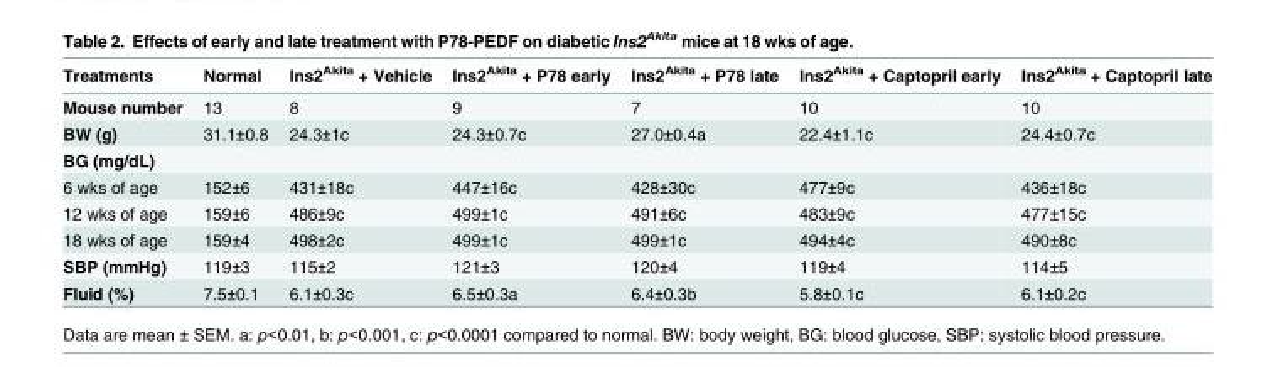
<table><thead><tr><td>Treatments</td><td>Normal</td><td>Ins2<sup>Akita</sup> + Vehicle</td><td>Ins2<sup>Akita</sup> + P78 early</td><td>Ins2<sup>Akita</sup> + P78 late</td><td>Ins2<sup>Akita</sup> + Captopril early</td><td>Ins2<sup>Akita</sup> + Captopril late</td></tr></thead><tbody><tr><td>Mouse number</td><td>13</td><td>8</td><td>9</td><td>7</td><td>10</td><td>10</td></tr><tr><td>BW (g)</td><td>31.1±0.8</td><td>24.3±1c</td><td>24.3±0.7c</td><td>27.0±0.4a</td><td>22.4±1.1c</td><td>24.4±0.7c</td></tr><tr><td colspan="7">BG (mg/dL)</td></tr><tr><td>6 wks of age</td><td>152±6</td><td>431±18c</td><td>447±16c</td><td>428±30c</td><td>477±9c</td><td>436±18c</td></tr><tr><td>12 wks of age</td><td>159±6</td><td>486±9c</td><td>499±1c</td><td>491±6c</td><td>483±9c</td><td>477±15c</td></tr><tr><td>18 wks of age</td><td>159±4</td><td>498±2c</td><td>499±1c</td><td>499±1c</td><td>494±4c</td><td>490±8c</td></tr><tr><td>SBP (mmHg)</td><td>119±3</td><td>115±2</td><td>121±3</td><td>120±4</td><td>119±4</td><td>114±5</td></tr><tr><td>Fluid (%)</td><td>7.5±0.1</td><td>6.1±0.3c</td><td>6.5±0.3a</td><td>6.4±0.3b</td><td>5.8±0.1c</td><td>6.1±0.2c</td></tr></tbody></table>